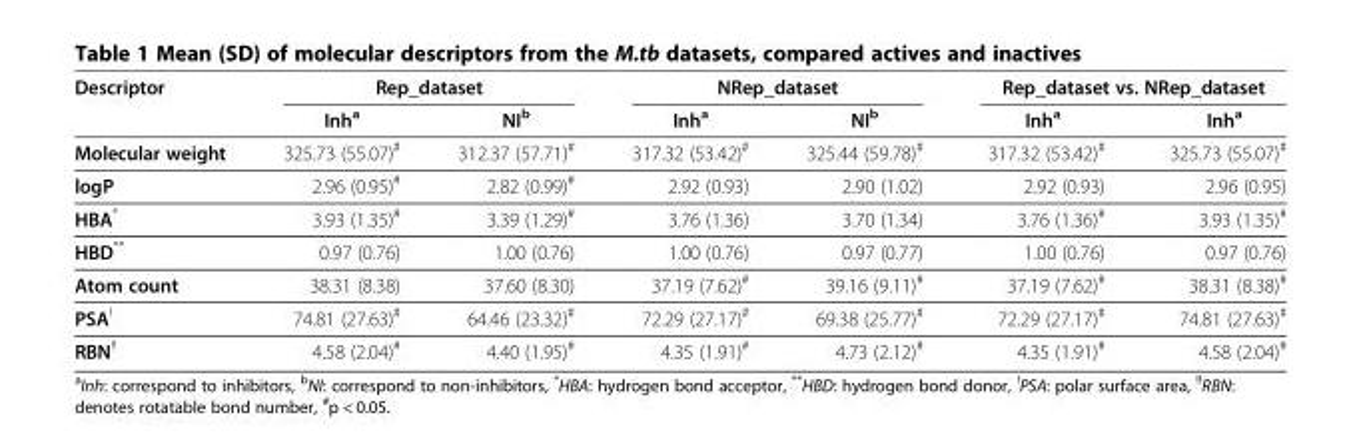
<table><thead><tr><td rowspan="2">Descriptor</td><td colspan="2">Rep_dataset</td><td colspan="2">NRep_dataset</td><td colspan="2">Rep_dataset vs. NRep_dataset</td></tr><tr><td>Inh<sup>a</sup></td><td>NI<sup>b</sup></td><td>Inh<sup>a</sup></td><td>NI<sup>b</sup></td><td>Inh<sup>a</sup></td><td>Inh<sup>a</sup></td></tr></thead><tbody><tr><td>Molecular weight</td><td>325.73 (55.07)<sup>#</sup></td><td>312.37 (57.71)<sup>#</sup></td><td>317.32 (53.42)<sup>#</sup></td><td>325.44 (59.78)<sup>#</sup></td><td>317.32 (53.42)<sup>#</sup></td><td>325.73 (55.07)<sup>#</sup></td></tr><tr><td>logP</td><td>2.96 (0.95)<sup>#</sup></td><td>2.82 (0.99)<sup>#</sup></td><td>2.92 (0.93)</td><td>2.90 (1.02)</td><td>2.92 (0.93)</td><td>2.96 (0.95)</td></tr><tr><td>HBA*</td><td>3.93 (1.35)<sup>#</sup></td><td>3.39 (1.29)<sup>#</sup></td><td>3.76 (1.36)</td><td>3.70 (1.34)</td><td>3.76 (1.36)<sup>#</sup></td><td>3.93 (1.35)<sup>#</sup></td></tr><tr><td>HBD**</td><td>0.97 (0.76)</td><td>1.00 (0.76)</td><td>1.00 (0.76)</td><td>0.97 (0.77)</td><td>1.00 (0.76)</td><td>0.97 (0.76)</td></tr><tr><td>Atom count</td><td>38.31 (8.38)</td><td>37.60 (8.30)</td><td>37.19 (7.62)<sup>#</sup></td><td>39.16 (9.11)<sup>#</sup></td><td>37.19 (7.62)<sup>#</sup></td><td>38.31 (8.38)<sup>#</sup></td></tr><tr><td>PSA<sup>!</sup></td><td>74.81 (27.63)<sup>#</sup></td><td>64.46 (23.32)<sup>#</sup></td><td>72.29 (27.17)<sup>#</sup></td><td>69.38 (25.77)<sup>#</sup></td><td>72.29 (27.17)<sup>#</sup></td><td>74.81 (27.63)<sup>#</sup></td></tr><tr><td>RBN<sup>!!</sup></td><td>4.58 (2.04)<sup>#</sup></td><td>4.40 (1.95)<sup>#</sup></td><td>4.35 (1.91)<sup>#</sup></td><td>4.73 (2.12)<sup>#</sup></td><td>4.35 (1.91)<sup>#</sup></td><td>4.58 (2.04)<sup>#</sup></td></tr></tbody></table>